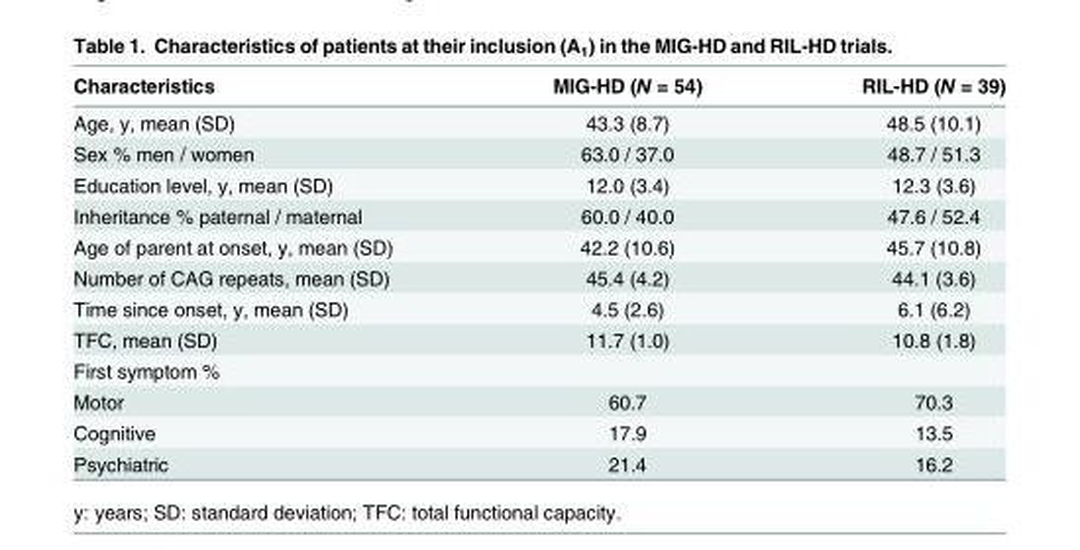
<table><thead><tr><td>Characteristics</td><td>MIG-HD (N = 54)</td><td>RIL-HD (N = 39)</td></tr></thead><tbody><tr><td>Age, y, mean (SD)</td><td>43.3 (8.7)</td><td>48.5 (10.1)</td></tr><tr><td>Sex % men / women</td><td>63.0 / 37.0</td><td>48.7 / 51.3</td></tr><tr><td>Education level, y, mean (SD)</td><td>12.0 (3.4)</td><td>12.3 (3.6)</td></tr><tr><td>Inheritance % paternal / maternal</td><td>60.0 / 40.0</td><td>47.6 / 52.4</td></tr><tr><td>Age of parent at onset, y, mean (SD)</td><td>42.2 (10.6)</td><td>45.7 (10.8)</td></tr><tr><td>Number of CAG repeats, mean (SD)</td><td>45.4 (4.2)</td><td>44.1 (3.6)</td></tr><tr><td>Time since onset, y, mean (SD)</td><td>4.5 (2.6)</td><td>6.1 (6.2)</td></tr><tr><td>TFC, mean (SD)</td><td>11.7 (1.0)</td><td>10.8 (1.8)</td></tr><tr><td colspan="3">First symptom %</td></tr><tr><td>Motor</td><td>60.7</td><td>70.3</td></tr><tr><td>Cognitive</td><td>17.9</td><td>13.5</td></tr><tr><td>Psychiatric</td><td>21.4</td><td>16.2</td></tr></tbody></table>